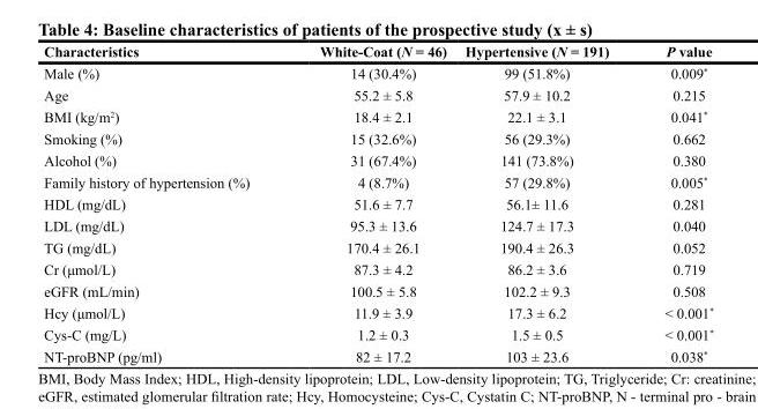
<table><thead><tr><td>Characteristics</td><td>White-Coat (N = 46)</td><td>Hypertensive (N = 191)</td><td>P value</td></tr></thead><tbody><tr><td>Male (%)</td><td>14 (30.4%)</td><td>99 (51.8%)</td><td>0.009*</td></tr><tr><td>Age</td><td>55.2 ± 5.8</td><td>57.9 ± 10.2</td><td>0.215</td></tr><tr><td>BMI (kg/m<sup>2</sup>)</td><td>18.4 ± 2.1</td><td>22.1 ± 3.1</td><td>0.041*</td></tr><tr><td>Smoking (%)</td><td>15 (32.6%)</td><td>56 (29.3%)</td><td>0.662</td></tr><tr><td>Alcohol (%)</td><td>31 (67.4%)</td><td>141 (73.8%)</td><td>0.380</td></tr><tr><td>Family history of hypertension (%)</td><td>4 (8.7%)</td><td>57 (29.8%)</td><td>0.005*</td></tr><tr><td>HDL (mg/dL)</td><td>51.6 ± 7.7</td><td>56.1± 11.6</td><td>0.281</td></tr><tr><td>LDL (mg/dL)</td><td>95.3 ± 13.6</td><td>124.7 ± 17.3</td><td>0.040</td></tr><tr><td>TG (mg/dL)</td><td>170.4 ± 26.1</td><td>190.4 ± 26.3</td><td>0.052</td></tr><tr><td>Cr (μmol/L)</td><td>87.3 ± 4.2</td><td>86.2 ± 3.6</td><td>0.719</td></tr><tr><td>eGFR (mL/min)</td><td>100.5 ± 5.8</td><td>102.2 ± 9.3</td><td>0.508</td></tr><tr><td>Hcy (μmol/L)</td><td>11.9 ± 3.9</td><td>17.3 ± 6.2</td><td>&lt; 0.001*</td></tr><tr><td>Cys-C (mg/L)</td><td>1.2 ± 0.3</td><td>1.5 ± 0.5</td><td>&lt; 0.001*</td></tr><tr><td>NT-proBNP (pg/ml)</td><td>82 ± 17.2</td><td>103 ± 23.6</td><td>0.038*</td></tr></tbody></table>